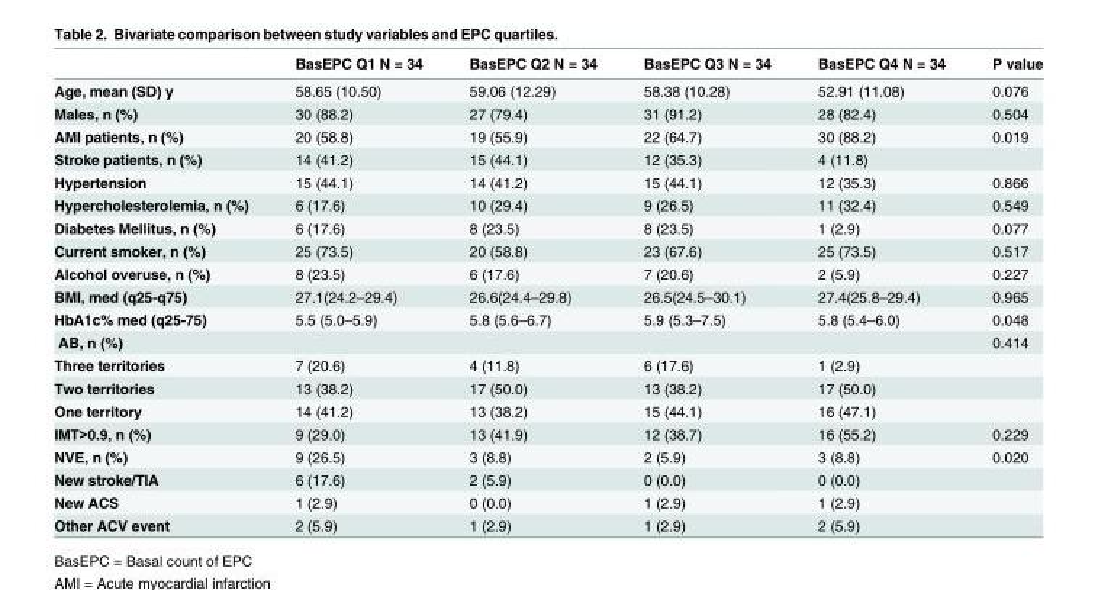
<table><thead><tr><td></td><td>BasEPC Q1 N = 34</td><td>BasEPC Q2 N = 34</td><td>BasEPC Q3 N = 34</td><td>BasEPC Q4 N = 34</td><td>P value</td></tr></thead><tbody><tr><td>Age, mean (SD) y</td><td>58.65 (10.50)</td><td>59.06 (12.29)</td><td>58.38 (10.28)</td><td>52.91 (11.08)</td><td>0.076</td></tr><tr><td>Males, n (%)</td><td>30 (88.2)</td><td>27 (79.4)</td><td>31 (91.2)</td><td>28 (82.4)</td><td>0.504</td></tr><tr><td>AMI patients, n (%)</td><td>20 (58.8)</td><td>19 (55.9)</td><td>22 (64.7)</td><td>30 (88.2)</td><td>0.019</td></tr><tr><td>Stroke patients, n (%)</td><td>14 (41.2)</td><td>15 (44.1)</td><td>12 (35.3)</td><td>4 (11.8)</td><td></td></tr><tr><td>Hypertension</td><td>15 (44.1)</td><td>14 (41.2)</td><td>15 (44.1)</td><td>12 (35.3)</td><td>0.866</td></tr><tr><td>Hypercholesterolemia, n (%)</td><td>6 (17.6)</td><td>10 (29.4)</td><td>9 (26.5)</td><td>11 (32.4)</td><td>0.549</td></tr><tr><td>Diabetes Mellitus, n (%)</td><td>6 (17.6)</td><td>8 (23.5)</td><td>8 (23.5)</td><td>1 (2.9)</td><td>0.077</td></tr><tr><td>Current smoker, n (%)</td><td>25 (73.5)</td><td>20 (58.8)</td><td>23 (67.6)</td><td>25 (73.5)</td><td>0.517</td></tr><tr><td>Alcohol overuse, n (%)</td><td>8 (23.5)</td><td>6 (17.6)</td><td>7 (20.6)</td><td>2 (5.9)</td><td>0.227</td></tr><tr><td>BMI, med (q25-q75)</td><td>27.1(24.2–29.4)</td><td>26.6(24.4–29.8)</td><td>26.5(24.5–30.1)</td><td>27.4(25.8–29.4)</td><td>0.965</td></tr><tr><td>HbA1c% med (q25-75)</td><td>5.5 (5.0–5.9)</td><td>5.8 (5.6–6.7)</td><td>5.9 (5.3–7.5)</td><td>5.8 (5.4–6.0)</td><td>0.048</td></tr><tr><td>AB, n (%)</td><td></td><td></td><td></td><td></td><td>0.414</td></tr><tr><td>Three territories</td><td>7 (20.6)</td><td>4 (11.8)</td><td>6 (17.6)</td><td>1 (2.9)</td><td></td></tr><tr><td>Two territories</td><td>13 (38.2)</td><td>17 (50.0)</td><td>13 (38.2)</td><td>17 (50.0)</td><td></td></tr><tr><td>One territory</td><td>14 (41.2)</td><td>13 (38.2)</td><td>15 (44.1)</td><td>16 (47.1)</td><td></td></tr><tr><td>IMT&gt;0.9, n (%)</td><td>9 (29.0)</td><td>13 (41.9)</td><td>12 (38.7)</td><td>16 (55.2)</td><td>0.229</td></tr><tr><td>NVE, n (%)</td><td>9 (26.5)</td><td>3 (8.8)</td><td>2 (5.9)</td><td>3 (8.8)</td><td>0.020</td></tr><tr><td>New stroke/TIA</td><td>6 (17.6)</td><td>2 (5.9)</td><td>0 (0.0)</td><td>0 (0.0)</td><td></td></tr><tr><td>New ACS</td><td>1 (2.9)</td><td>0 (0.0)</td><td>1 (2.9)</td><td>1 (2.9)</td><td></td></tr><tr><td>Other ACV event</td><td>2 (5.9)</td><td>1 (2.9)</td><td>1 (2.9)</td><td>2 (5.9)</td><td></td></tr></tbody></table>